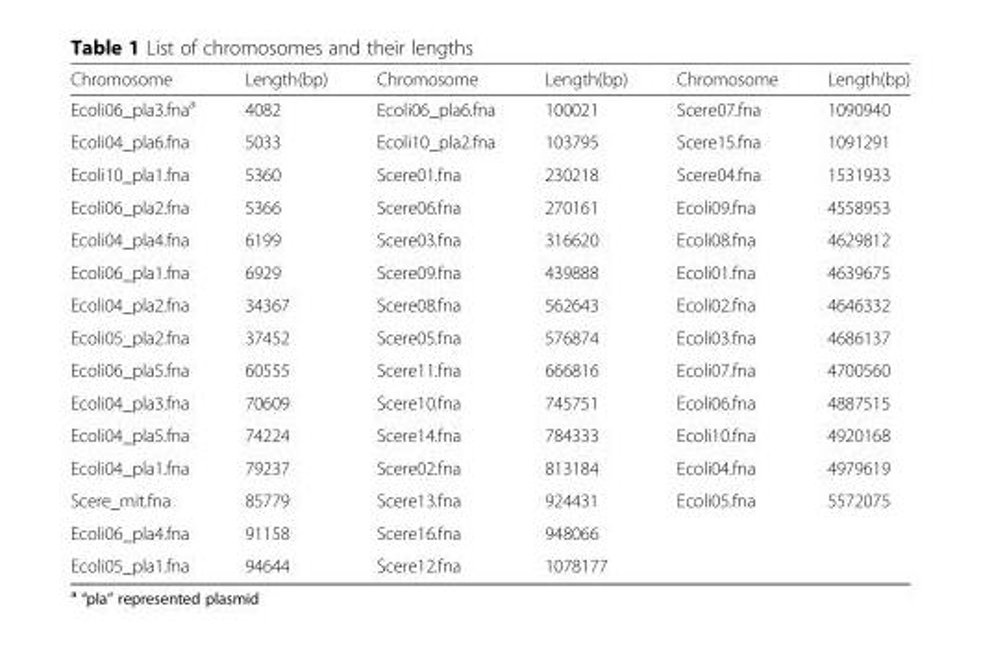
<table><thead><tr><td>Chromosome</td><td>Length(bp)</td><td>Chromosome</td><td>Length(bp)</td><td>Chromosome</td><td>Length(bp)</td></tr></thead><tbody><tr><td>Ecoli06_pla3.fna<sup>a</sup></td><td>4082</td><td>Ecoli06_pla6.fna</td><td>100021</td><td>Scere07.fna</td><td>1090940</td></tr><tr><td>Ecoli04_pla6.fna</td><td>5033</td><td>Ecoli10_pla2.fna</td><td>103795</td><td>Scere15.fna</td><td>1091291</td></tr><tr><td>Ecoli10_pla1.fna</td><td>5360</td><td>Scere01.fna</td><td>230218</td><td>Scere04.fna</td><td>1531933</td></tr><tr><td>Ecoli06_pla2.fna</td><td>5366</td><td>Scere06.fna</td><td>270161</td><td>Ecoli09.fna</td><td>4558953</td></tr><tr><td>Ecoli04_pla4.fna</td><td>6199</td><td>Scere03.fna</td><td>316620</td><td>Ecoli08.fna</td><td>4629812</td></tr><tr><td>Ecoli06_pla1.fna</td><td>6929</td><td>Scere09.fna</td><td>439888</td><td>Ecoli01.fna</td><td>4639675</td></tr><tr><td>Ecoli04_pla2.fna</td><td>34367</td><td>Scere08.fna</td><td>562643</td><td>Ecoli02.fna</td><td>4646332</td></tr><tr><td>Ecoli05_pla2.fna</td><td>37452</td><td>Scere05.fna</td><td>576874</td><td>Ecoli03.fna</td><td>4686137</td></tr><tr><td>Ecoli06_pla5.fna</td><td>60555</td><td>Scere11.fna</td><td>666816</td><td>Ecoli07.fna</td><td>4700560</td></tr><tr><td>Ecoli04_pla3.fna</td><td>70609</td><td>Scere10.fna</td><td>745751</td><td>Ecoli06.fna</td><td>4887515</td></tr><tr><td>Ecoli04_pla5.fna</td><td>74224</td><td>Scere14.fna</td><td>784333</td><td>Ecoli10.fna</td><td>4920168</td></tr><tr><td>Ecoli04_pla1.fna</td><td>79237</td><td>Scere02.fna</td><td>813184</td><td>Ecoli04.fna</td><td>4979619</td></tr><tr><td>Scere_mit.fna</td><td>85779</td><td>Scere13.fna</td><td>924431</td><td>Ecoli05.fna</td><td>5572075</td></tr><tr><td>Ecoli06_pla4.fna</td><td>91158</td><td>Scere16.fna</td><td>948066</td><td></td><td></td></tr><tr><td>Ecoli05_pla1.fna</td><td>94644</td><td>Scere12.fna</td><td>1078177</td><td></td><td></td></tr></tbody></table>